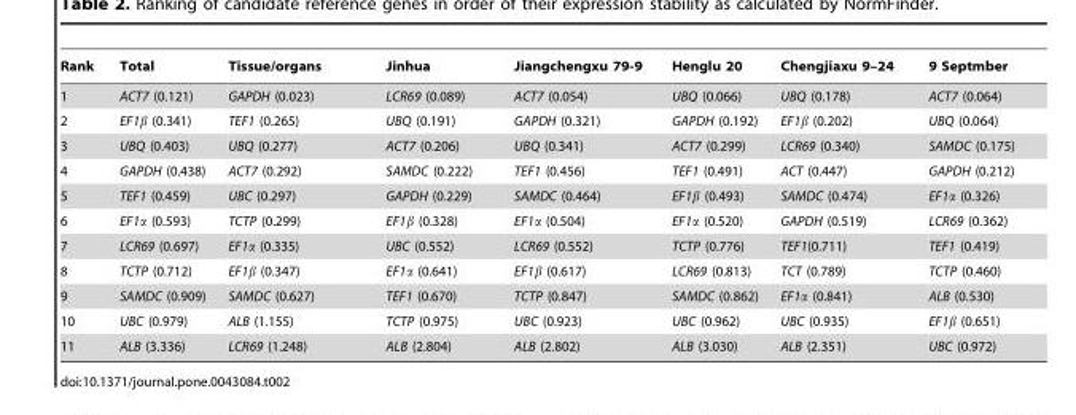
<table><thead><tr><td>Rank</td><td>Total</td><td>Tissue/organs</td><td>Jinhua</td><td>Jiangchengxu 79-9</td><td>Henglu 20</td><td>Chengjiaxu 9–24</td><td>9 Septmber</td></tr></thead><tbody><tr><td>1</td><td>ACT7 (0.121)</td><td>GAPDH (0.023)</td><td>LCR69 (0.089)</td><td>ACT7 (0.054)</td><td>UBQ (0.066)</td><td>UBQ (0.178)</td><td>ACT7 (0.064)</td></tr><tr><td>2</td><td>EF1β (0.341)</td><td>TEF1 (0.265)</td><td>UBQ (0.191)</td><td>GAPDH (0.321)</td><td>GAPDH (0.192)</td><td>EF1β (0.202)</td><td>UBQ (0.064)</td></tr><tr><td>3</td><td>UBQ (0.403)</td><td>UBQ (0.277)</td><td>ACT7 (0.206)</td><td>UBQ (0.341)</td><td>ACT7 (0.299)</td><td>LCR69 (0.340)</td><td>SAMDC (0.175)</td></tr><tr><td>4</td><td>GAPDH (0.438)</td><td>ACT7 (0.292)</td><td>SAMDC (0.222)</td><td>TEF1 (0.456)</td><td>TEF1 (0.491)</td><td>ACT (0.447)</td><td>GAPDH (0.212)</td></tr><tr><td>5</td><td>TEF1 (0.459)</td><td>UBC (0.297)</td><td>GAPDH (0.229)</td><td>SAMDC (0.464)</td><td>EF1β (0.493)</td><td>SAMDC (0.474)</td><td>EF1α (0.326)</td></tr><tr><td>6</td><td>EF1α (0.593)</td><td>TCTP (0.299)</td><td>EF1β (0.328)</td><td>EF1α (0.504)</td><td>EF1α (0.520)</td><td>GAPDH (0.519)</td><td>LCR69 (0.362)</td></tr><tr><td>7</td><td>LCR69 (0.697)</td><td>EF1α (0.335)</td><td>UBC (0.552)</td><td>LCR69 (0.552)</td><td>TCTP (0.776)</td><td>TEF1(0.711)</td><td>TEF1 (0.419)</td></tr><tr><td>8</td><td>TCTP (0.712)</td><td>EF1β (0.347)</td><td>EF1α (0.641)</td><td>EF1β (0.617)</td><td>LCR69 (0.813)</td><td>TCT (0.789)</td><td>TCTP (0.460)</td></tr><tr><td>9</td><td>SAMDC (0.909)</td><td>SAMDC (0.627)</td><td>TEF1 (0.670)</td><td>TCTP (0.847)</td><td>SAMDC (0.862)</td><td>EF1α (0.841)</td><td>ALB (0.530)</td></tr><tr><td>10</td><td>UBC (0.979)</td><td>ALB (1.155)</td><td>TCTP (0.975)</td><td>UBC (0.923)</td><td>UBC (0.962)</td><td>UBC (0.935)</td><td>EF1β (0.651)</td></tr><tr><td>11</td><td>ALB (3.336)</td><td>LCR69 (1.248)</td><td>ALB (2.804)</td><td>ALB (2.802)</td><td>ALB (3.030)</td><td>ALB (2.351)</td><td>UBC (0.972)</td></tr></tbody></table>